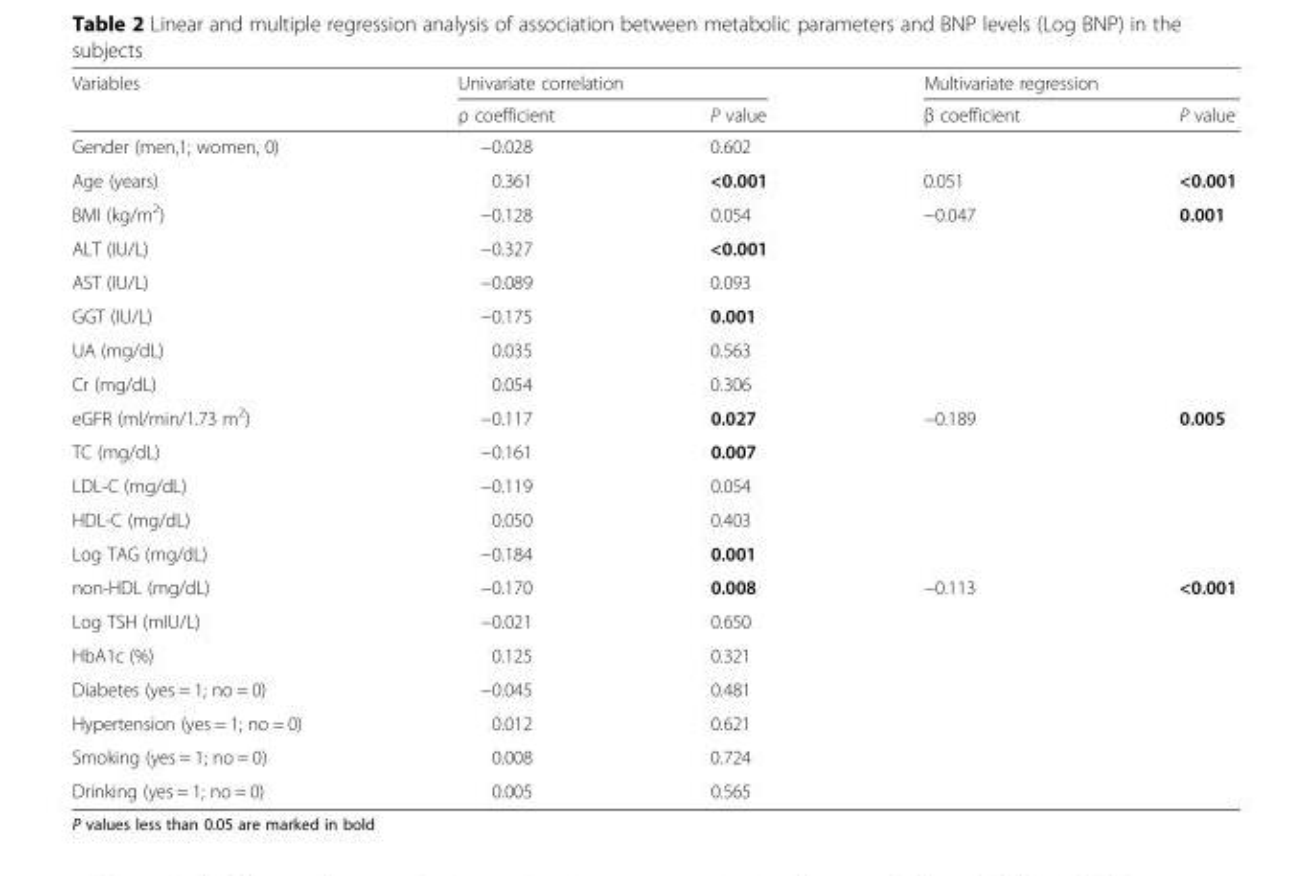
<table><thead><tr><td rowspan="2">Variables</td><td colspan="2">Univariate correlation</td><td colspan="2">Multivariate regression</td></tr><tr><td>ρ coefficient</td><td>P value</td><td>β coefficient</td><td>P value</td></tr></thead><tbody><tr><td>Gender (men,1; women, 0)</td><td>−0.028</td><td>0.602</td><td></td><td></td></tr><tr><td>Age (years)</td><td>0.361</td><td>&lt;0.001</td><td>0.051</td><td>&lt;0.001</td></tr><tr><td>BMI (kg/m<sup>2</sup>)</td><td>−0.128</td><td>0.054</td><td>−0.047</td><td>0.001</td></tr><tr><td>ALT (IU/L)</td><td>−0.327</td><td>&lt;0.001</td><td></td><td></td></tr><tr><td>AST (IU/L)</td><td>−0.089</td><td>0.093</td><td></td><td></td></tr><tr><td>GGT (IU/L)</td><td>−0.175</td><td>0.001</td><td></td><td></td></tr><tr><td>UA (mg/dL)</td><td>0.035</td><td>0.563</td><td></td><td></td></tr><tr><td>Cr (mg/dL)</td><td>0.054</td><td>0.306</td><td></td><td></td></tr><tr><td>eGFR (ml/min/1.73 m<sup>2</sup>)</td><td>−0.117</td><td>0.027</td><td>−0.189</td><td>0.005</td></tr><tr><td>TC (mg/dL)</td><td>−0.161</td><td>0.007</td><td></td><td></td></tr><tr><td>LDL-C (mg/dL)</td><td>−0.119</td><td>0.054</td><td></td><td></td></tr><tr><td>HDL-C (mg/dL)</td><td>0.050</td><td>0.403</td><td></td><td></td></tr><tr><td>Log TAG (mg/dL)</td><td>−0.184</td><td>0.001</td><td></td><td></td></tr><tr><td>non-HDL (mg/dL)</td><td>−0.170</td><td>0.008</td><td>−0.113</td><td>&lt;0.001</td></tr><tr><td>Log TSH (mIU/L)</td><td>−0.021</td><td>0.650</td><td></td><td></td></tr><tr><td>HbA1c (%)</td><td>0.125</td><td>0.321</td><td></td><td></td></tr><tr><td>Diabetes (yes = 1; no = 0)</td><td>−0.045</td><td>0.481</td><td></td><td></td></tr><tr><td>Hypertension (yes = 1; no = 0)</td><td>0.012</td><td>0.621</td><td></td><td></td></tr><tr><td>Smoking (yes = 1; no = 0)</td><td>0.008</td><td>0.724</td><td></td><td></td></tr><tr><td>Drinking (yes = 1; no = 0)</td><td>0.005</td><td>0.565</td><td></td><td></td></tr></tbody></table>